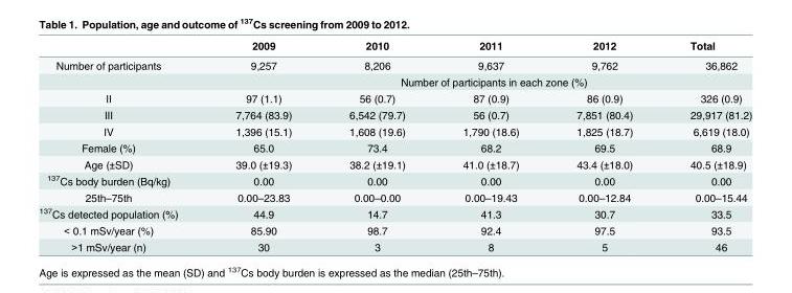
<table><thead><tr><td></td><td>2009</td><td>2010</td><td>2011</td><td>2012</td><td>Total</td></tr></thead><tbody><tr><td rowspan="2">Number of participants</td><td>9,257</td><td>8,206</td><td>9,637</td><td>9,762</td><td>36,862</td></tr><tr><td colspan="5">Number of participants in each zone (%)</td></tr><tr><td>II</td><td>97 (1.1)</td><td>56 (0.7)</td><td>87 (0.9)</td><td>86 (0.9)</td><td>326 (0.9)</td></tr><tr><td>III</td><td>7,764 (83.9)</td><td>6,542 (79.7)</td><td>56 (0.7)</td><td>7,851 (80.4)</td><td>29,917 (81.2)</td></tr><tr><td>IV</td><td>1,396 (15.1)</td><td>1,608 (19.6)</td><td>1,790 (18.6)</td><td>1,825 (18.7)</td><td>6,619 (18.0)</td></tr><tr><td>Female (%)</td><td>65.0</td><td>73.4</td><td>68.2</td><td>69.5</td><td>68.9</td></tr><tr><td>Age (±SD)</td><td>39.0 (±19.3)</td><td>38.2 (±19.1)</td><td>41.0 (±18.7)</td><td>43.4 (±18.0)</td><td>40.5 (±18.9)</td></tr><tr><td><sup>137</sup>Cs body burden (Bq/kg)</td><td>0.00</td><td>0.00</td><td>0.00</td><td>0.00</td><td>0.00</td></tr><tr><td>25th–75th</td><td>0.00–23.83</td><td>0.00–0.00</td><td>0.00–19.43</td><td>0.00–12.84</td><td>0.00–15.44</td></tr><tr><td><sup>137</sup>Cs detected population (%)</td><td>44.9</td><td>14.7</td><td>41.3</td><td>30.7</td><td>33.5</td></tr><tr><td>&lt; 0.1 mSv/year (%)</td><td>85.90</td><td>98.7</td><td>92.4</td><td>97.5</td><td>93.5</td></tr><tr><td>&gt;1 mSv/year (n)</td><td>30</td><td>3</td><td>8</td><td>5</td><td>46</td></tr></tbody></table>